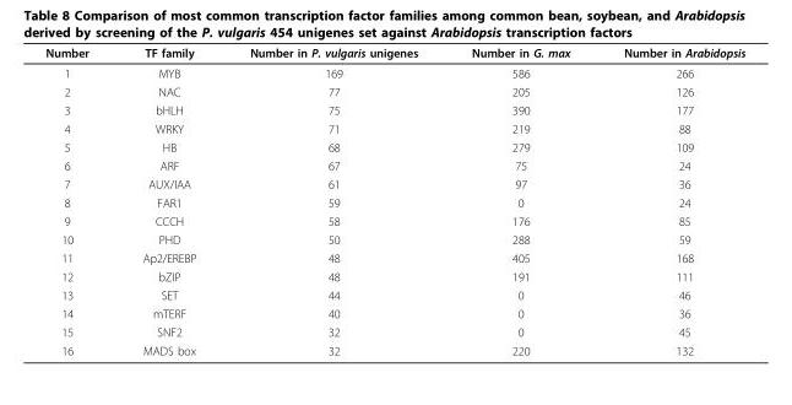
<table><thead><tr><td>Number</td><td>TF family</td><td>Number in P. vulgaris unigenes</td><td>Number in G. max</td><td>Number in Arabidopsis</td></tr></thead><tbody><tr><td>1</td><td>MYB</td><td>169</td><td>586</td><td>266</td></tr><tr><td>2</td><td>NAC</td><td>77</td><td>205</td><td>126</td></tr><tr><td>3</td><td>bHLH</td><td>75</td><td>390</td><td>177</td></tr><tr><td>4</td><td>WRKY</td><td>71</td><td>219</td><td>88</td></tr><tr><td>5</td><td>HB</td><td>68</td><td>279</td><td>109</td></tr><tr><td>6</td><td>ARF</td><td>67</td><td>75</td><td>24</td></tr><tr><td>7</td><td>AUX/IAA</td><td>61</td><td>97</td><td>36</td></tr><tr><td>8</td><td>FAR1</td><td>59</td><td>0</td><td>24</td></tr><tr><td>9</td><td>CCCH</td><td>58</td><td>176</td><td>85</td></tr><tr><td>10</td><td>PHD</td><td>50</td><td>288</td><td>59</td></tr><tr><td>11</td><td>Ap2/EREBP</td><td>48</td><td>405</td><td>168</td></tr><tr><td>12</td><td>bZIP</td><td>48</td><td>191</td><td>111</td></tr><tr><td>13</td><td>SET</td><td>44</td><td>0</td><td>46</td></tr><tr><td>14</td><td>mTERF</td><td>40</td><td>0</td><td>36</td></tr><tr><td>15</td><td>SNF2</td><td>32</td><td>0</td><td>45</td></tr><tr><td>16</td><td>MADS box</td><td>32</td><td>220</td><td>132</td></tr></tbody></table>